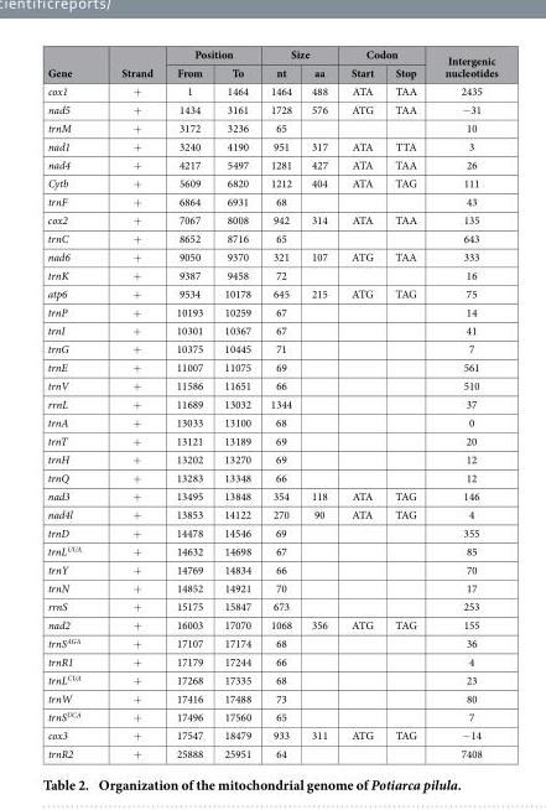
<table><thead><tr><td rowspan="2">Gene</td><td rowspan="2">Strand</td><td colspan="2">Position</td><td colspan="2">Size</td><td colspan="2">Codon</td><td rowspan="2">Intergenic nucleotides</td></tr><tr><td>From</td><td>To</td><td>nt</td><td>aa</td><td>Start</td><td>Stop</td></tr></thead><tbody><tr><td>cox1</td><td>+</td><td>1</td><td>1464</td><td>1464</td><td>488</td><td>ATA</td><td>TAA</td><td>2435</td></tr><tr><td>nad5</td><td>+</td><td>1434</td><td>3161</td><td>1728</td><td>576</td><td>ATG</td><td>TAA</td><td>− 31</td></tr><tr><td>trnM</td><td>+</td><td>3172</td><td>3236</td><td>65</td><td></td><td></td><td></td><td>10</td></tr><tr><td>nad1</td><td>+</td><td>3240</td><td>4190</td><td>951</td><td>317</td><td>ATA</td><td>TTA</td><td>3</td></tr><tr><td>nad4</td><td>+</td><td>4217</td><td>5497</td><td>1281</td><td>427</td><td>ATA</td><td>TAA</td><td>26</td></tr><tr><td>Cytb</td><td>+</td><td>5609</td><td>6820</td><td>1212</td><td>404</td><td>ATA</td><td>TAG</td><td>111</td></tr><tr><td>trnF</td><td>+</td><td>6864</td><td>6931</td><td>68</td><td></td><td></td><td></td><td>43</td></tr><tr><td>cox2</td><td>+</td><td>7067</td><td>8008</td><td>942</td><td>314</td><td>ATA</td><td>TAA</td><td>135</td></tr><tr><td>trnC</td><td>+</td><td>8652</td><td>8716</td><td>65</td><td></td><td></td><td></td><td>643</td></tr><tr><td>nad6</td><td>+</td><td>9050</td><td>9370</td><td>321</td><td>107</td><td>ATG</td><td>TAA</td><td>333</td></tr><tr><td>trnK</td><td>+</td><td>9387</td><td>9458</td><td>72</td><td></td><td></td><td></td><td>16</td></tr><tr><td>atp6</td><td>+</td><td>9534</td><td>10178</td><td>645</td><td>215</td><td>ATG</td><td>TAG</td><td>75</td></tr><tr><td>trnP</td><td>+</td><td>10193</td><td>10259</td><td>67</td><td></td><td></td><td></td><td>14</td></tr><tr><td>trnI</td><td>+</td><td>10301</td><td>10367</td><td>67</td><td></td><td></td><td></td><td>41</td></tr><tr><td>trnG</td><td>+</td><td>10375</td><td>10445</td><td>71</td><td></td><td></td><td></td><td>7</td></tr><tr><td>trnE</td><td>+</td><td>11007</td><td>11075</td><td>69</td><td></td><td></td><td></td><td>561</td></tr><tr><td>trnV</td><td>+</td><td>11586</td><td>11651</td><td>66</td><td></td><td></td><td></td><td>510</td></tr><tr><td>rrnL</td><td>+</td><td>11689</td><td>13032</td><td>1344</td><td></td><td></td><td></td><td>37</td></tr><tr><td>trnA</td><td>+</td><td>13033</td><td>13100</td><td>68</td><td></td><td></td><td></td><td>0</td></tr><tr><td>trnT</td><td>+</td><td>13121</td><td>13189</td><td>69</td><td></td><td></td><td></td><td>20</td></tr><tr><td>trnH</td><td>+</td><td>13202</td><td>13270</td><td>69</td><td></td><td></td><td></td><td>12</td></tr><tr><td>trnQ</td><td>+</td><td>13283</td><td>13348</td><td>66</td><td></td><td></td><td></td><td>12</td></tr><tr><td>nad3</td><td>+</td><td>13495</td><td>13848</td><td>354</td><td>118</td><td>ATA</td><td>TAG</td><td>146</td></tr><tr><td>nad4l</td><td>+</td><td>13853</td><td>14122</td><td>270</td><td>90</td><td>ATA</td><td>TAG</td><td>4</td></tr><tr><td>trnD</td><td>+</td><td>14478</td><td>14546</td><td>69</td><td></td><td></td><td></td><td>355</td></tr><tr><td>trnL<sup>UUA</sup></td><td>+</td><td>14632</td><td>14698</td><td>67</td><td></td><td></td><td></td><td>85</td></tr><tr><td>trnY</td><td>+</td><td>14769</td><td>14834</td><td>66</td><td></td><td></td><td></td><td>70</td></tr><tr><td>trnN</td><td>+</td><td>14852</td><td>14921</td><td>70</td><td></td><td></td><td></td><td>17</td></tr><tr><td>rrnS</td><td>+</td><td>15175</td><td>15847</td><td>673</td><td></td><td></td><td></td><td>253</td></tr><tr><td>nad2</td><td>+</td><td>16003</td><td>17070</td><td>1068</td><td>356</td><td>ATG</td><td>TAG</td><td>155</td></tr><tr><td>trnS<sup>AGA</sup></td><td>+</td><td>17107</td><td>17174</td><td>68</td><td></td><td></td><td></td><td>36</td></tr><tr><td>trnR1</td><td>+</td><td>17179</td><td>17244</td><td>66</td><td></td><td></td><td></td><td>4</td></tr><tr><td>trnL<sup>CUA</sup></td><td>+</td><td>17268</td><td>17335</td><td>68</td><td></td><td></td><td></td><td>23</td></tr><tr><td>trnW</td><td>+</td><td>17416</td><td>17488</td><td>73</td><td></td><td></td><td></td><td>80</td></tr><tr><td>trnS<sup>UCA</sup></td><td>+</td><td>17496</td><td>17560</td><td>65</td><td></td><td></td><td></td><td>7</td></tr><tr><td>cox3</td><td>+</td><td>17547</td><td>18479</td><td>933</td><td>311</td><td>ATG</td><td>TAG</td><td>− 14</td></tr><tr><td>trnR2</td><td>+</td><td>25888</td><td>25951</td><td>64</td><td></td><td></td><td></td><td>7408</td></tr></tbody></table>